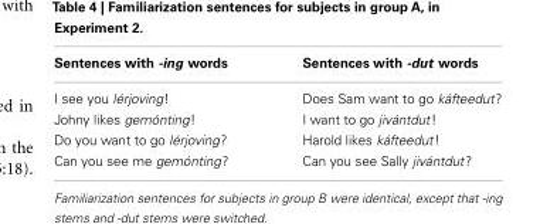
<table><thead><tr><td>Sentences with -ing words</td><td>Sentences with -dut words</td></tr></thead><tbody><tr><td>I see you lérjoving!</td><td>Does Sam want to go káfteedut?</td></tr><tr><td>Johny likes gemónting!</td><td>I want to go jivántdut!</td></tr><tr><td>Do you want to go lérjoving?</td><td>Harold likes káfteedut!</td></tr><tr><td>Can you see me gemónting?</td><td>Can you see Sally jivántdut?</td></tr></tbody></table>